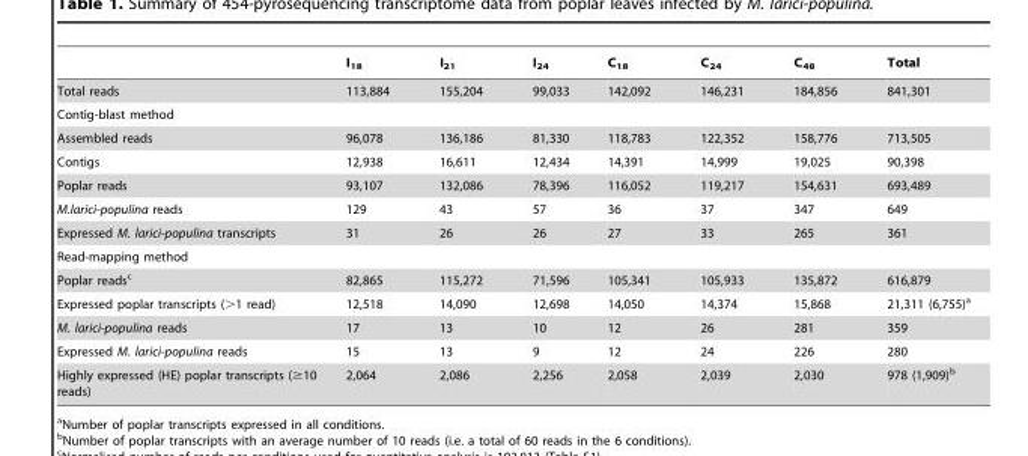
<table><thead><tr><td></td><td>I<sub>18</sub></td><td>I<sub>21</sub></td><td>I<sub>24</sub></td><td>C<sub>18</sub></td><td>C<sub>24</sub></td><td>C<sub>48</sub></td><td>Total</td></tr></thead><tbody><tr><td>Total reads</td><td>113,884</td><td>155,204</td><td>99,033</td><td>142,092</td><td>146,231</td><td>184,856</td><td>841,301</td></tr><tr><td colspan="8">Contig-blast method</td></tr><tr><td>Assembled reads</td><td>96,078</td><td>136,186</td><td>81,330</td><td>118,783</td><td>122,352</td><td>158,776</td><td>713,505</td></tr><tr><td>Contigs</td><td>12,938</td><td>16,611</td><td>12,434</td><td>14,391</td><td>14,999</td><td>19,025</td><td>90,398</td></tr><tr><td>Poplar reads</td><td>93,107</td><td>132,086</td><td>78,396</td><td>116,052</td><td>119,217</td><td>154,631</td><td>693,489</td></tr><tr><td>M.larici-populina reads</td><td>129</td><td>43</td><td>57</td><td>36</td><td>37</td><td>347</td><td>649</td></tr><tr><td>Expressed M. larici-populina transcripts</td><td>31</td><td>26</td><td>26</td><td>27</td><td>33</td><td>265</td><td>361</td></tr><tr><td colspan="8">Read-mapping method</td></tr><tr><td>Poplar reads<sup>c</sup></td><td>82,865</td><td>115,272</td><td>71,596</td><td>105,341</td><td>105,933</td><td>135,872</td><td>616,879</td></tr><tr><td>Expressed poplar transcripts (&gt;1 read)</td><td>12,518</td><td>14,090</td><td>12,698</td><td>14,050</td><td>14,374</td><td>15,868</td><td>21,311 (6,755)<sup>a</sup></td></tr><tr><td>M. larici-populina reads</td><td>17</td><td>13</td><td>10</td><td>12</td><td>26</td><td>281</td><td>359</td></tr><tr><td>Expressed M. larici-populina reads</td><td>15</td><td>13</td><td>9</td><td>12</td><td>24</td><td>226</td><td>280</td></tr><tr><td>Highly expressed (HE) poplar transcripts (≥10 reads)</td><td>2,064</td><td>2,086</td><td>2,256</td><td>2,058</td><td>2,039</td><td>2,030</td><td>978 (1,909)<sup>b</sup></td></tr></tbody></table>